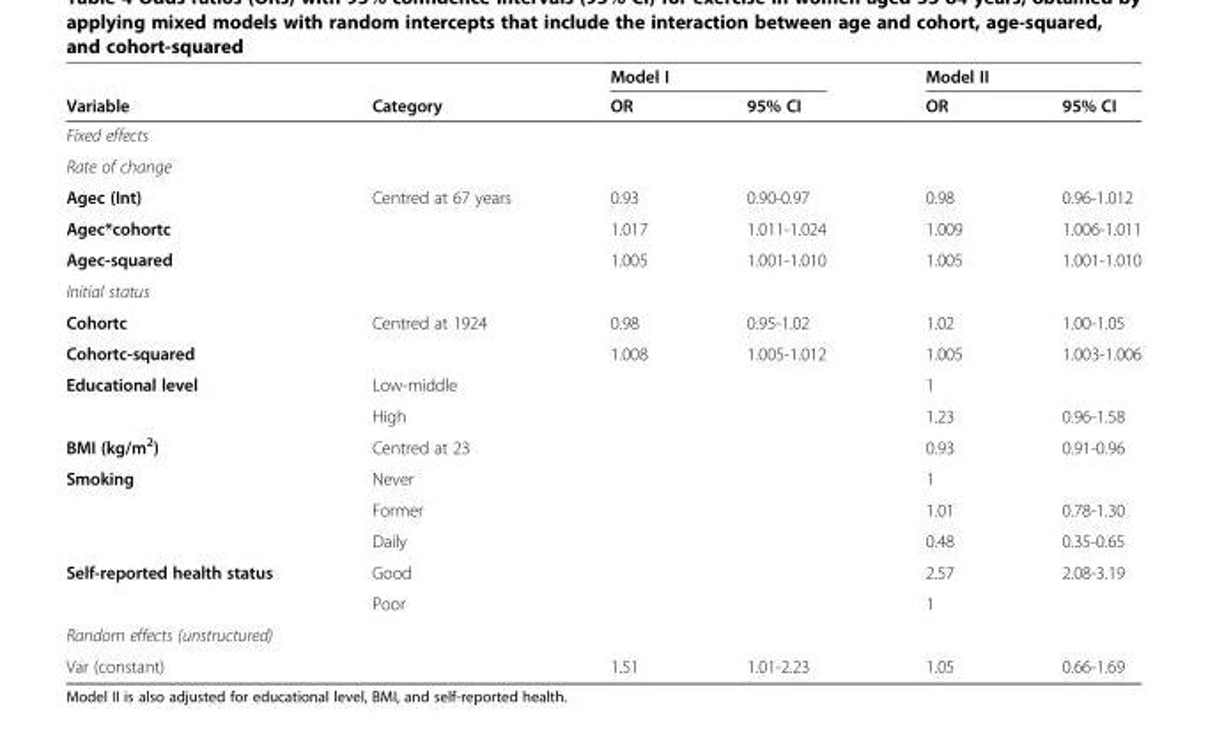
<table><thead><tr><td rowspan="2">Variable</td><td rowspan="2">Category</td><td colspan="2">Model I</td><td colspan="2">Model II</td></tr><tr><td>OR</td><td>95% CI</td><td>OR</td><td>95% CI</td></tr></thead><tbody><tr><td colspan="6">Fixed effects</td></tr><tr><td colspan="6">Rate of change</td></tr><tr><td>Agec (Int)</td><td>Centred at 67 years</td><td>0.93</td><td>0.90-0.97</td><td>0.98</td><td>0.96-1.012</td></tr><tr><td>Agec*cohortc</td><td></td><td>1.017</td><td>1.011-1.024</td><td>1.009</td><td>1.006-1.011</td></tr><tr><td>Agec-squared</td><td></td><td>1.005</td><td>1.001-1.010</td><td>1.005</td><td>1.001-1.010</td></tr><tr><td colspan="6">Initial status</td></tr><tr><td>Cohortc</td><td>Centred at 1924</td><td>0.98</td><td>0.95-1.02</td><td>1.02</td><td>1.00-1.05</td></tr><tr><td>Cohortc-squared</td><td></td><td>1.008</td><td>1.005-1.012</td><td>1.005</td><td>1.003-1.006</td></tr><tr><td rowspan="2">Educational level</td><td>Low-middle</td><td></td><td></td><td>1</td><td></td></tr><tr><td>High</td><td></td><td></td><td>1.23</td><td>0.96-1.58</td></tr><tr><td>BMI (kg/m<sup>2</sup>)</td><td>Centred at 23</td><td></td><td></td><td>0.93</td><td>0.91-0.96</td></tr><tr><td rowspan="3">Smoking</td><td>Never</td><td></td><td></td><td>1</td><td></td></tr><tr><td>Former</td><td></td><td></td><td>1.01</td><td>0.78-1.30</td></tr><tr><td>Daily</td><td></td><td></td><td>0.48</td><td>0.35-0.65</td></tr><tr><td rowspan="2">Self-reported health status</td><td>Good</td><td></td><td></td><td>2.57</td><td>2.08-3.19</td></tr><tr><td>Poor</td><td></td><td></td><td>1</td><td></td></tr><tr><td colspan="6">Random effects (unstructured)</td></tr><tr><td colspan="2">Var (constant)</td><td>1.51</td><td>1.01-2.23</td><td>1.05</td><td>0.66-1.69</td></tr></tbody></table>